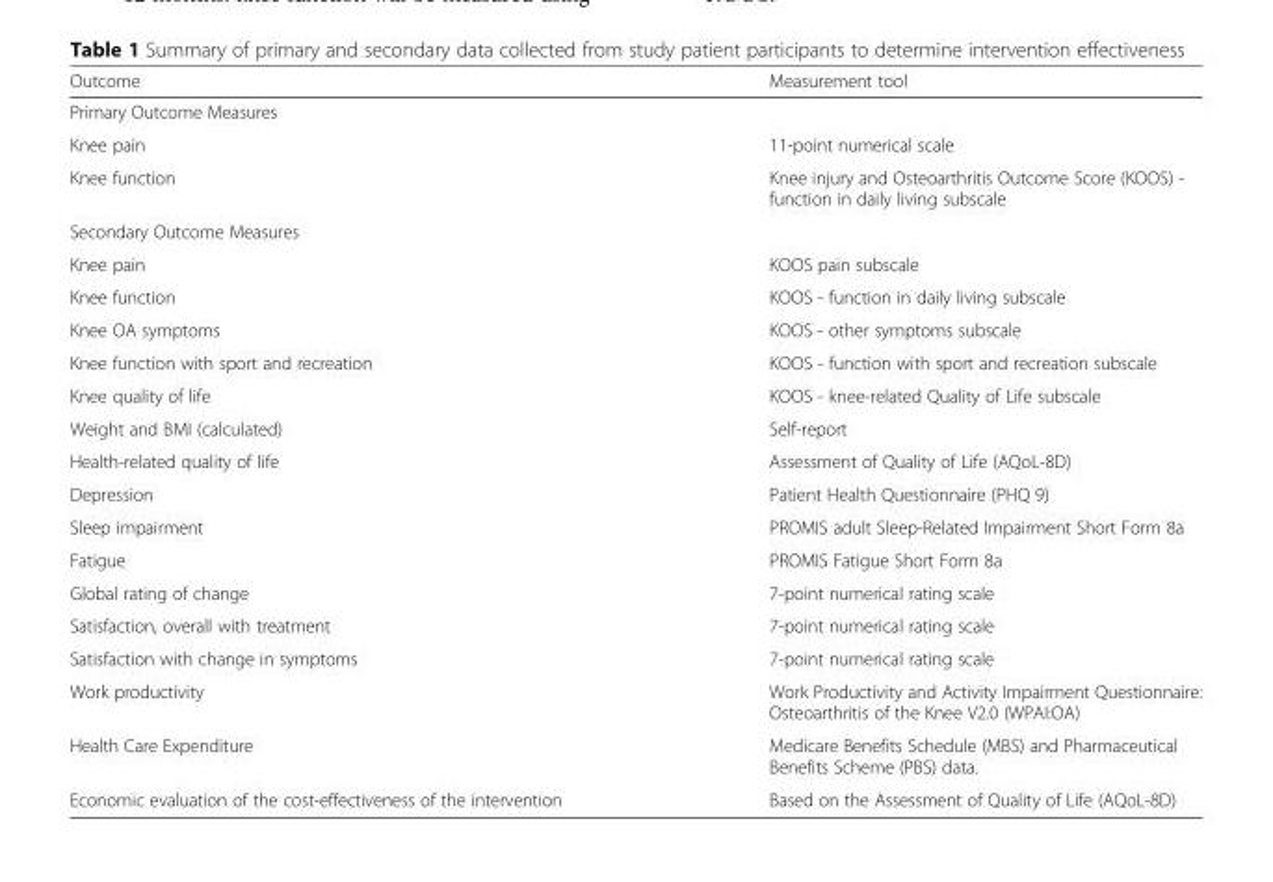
<table><thead><tr><td>Outcome</td><td>Measurement tool</td></tr></thead><tbody><tr><td colspan="2">Primary Outcome Measures</td></tr><tr><td>Knee pain</td><td>11-point numerical scale</td></tr><tr><td>Knee function</td><td>Knee injury and Osteoarthritis Outcome Score (KOOS) - function in daily living subscale</td></tr><tr><td colspan="2">Secondary Outcome Measures</td></tr><tr><td>Knee pain</td><td>KOOS pain subscale</td></tr><tr><td>Knee function</td><td>KOOS - function in daily living subscale</td></tr><tr><td>Knee OA symptoms</td><td>KOOS - other symptoms subscale</td></tr><tr><td>Knee function with sport and recreation</td><td>KOOS - function with sport and recreation subscale</td></tr><tr><td>Knee quality of life</td><td>KOOS - knee-related Quality of Life subscale</td></tr><tr><td>Weight and BMI (calculated)</td><td>Self-report</td></tr><tr><td>Health-related quality of life</td><td>Assessment of Quality of Life (AQoL-8D)</td></tr><tr><td>Depression</td><td>Patient Health Questionnaire (PHQ 9)</td></tr><tr><td>Sleep impairment</td><td>PROMIS adult Sleep-Related Impairment Short Form 8a</td></tr><tr><td>Fatigue</td><td>PROMIS Fatigue Short Form 8a</td></tr><tr><td>Global rating of change</td><td>7-point numerical rating scale</td></tr><tr><td>Satisfaction, overall with treatment</td><td>7-point numerical rating scale</td></tr><tr><td>Satisfaction with change in symptoms</td><td>7-point numerical rating scale</td></tr><tr><td>Work productivity</td><td>Work Productivity and Activity Impairment Questionnaire: Osteoarthritis of the Knee V2.0 (WPAI:OA)</td></tr><tr><td>Health Care Expenditure</td><td>Medicare Benefits Schedule (MBS) and Pharmaceutical Benefits Scheme (PBS) data.</td></tr><tr><td>Economic evaluation of the cost-effectiveness of the intervention</td><td>Based on the Assessment of Quality of Life (AQoL-8D)</td></tr></tbody></table>